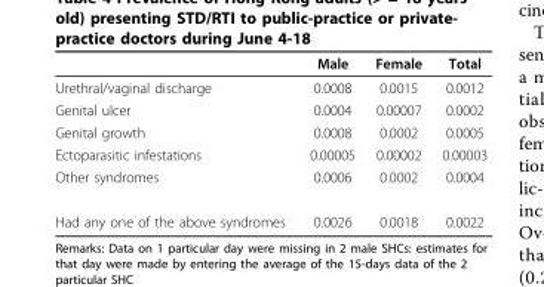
<table><thead><tr><td></td><td>Male</td><td>Female</td><td>Total</td></tr></thead><tbody><tr><td>Urethral/vaginal discharge</td><td>0.0008</td><td>0.0015</td><td>0.0012</td></tr><tr><td>Genital ulcer</td><td>0.0004</td><td>0.00007</td><td>0.0002</td></tr><tr><td>Genital growth</td><td>0.0008</td><td>0.0002</td><td>0.0005</td></tr><tr><td>Ectoparasitic infestations</td><td>0.00005</td><td>0.00002</td><td>0.00003</td></tr><tr><td>Other syndromes</td><td>0.0006</td><td>0.0002</td><td>0.0004</td></tr><tr><td>Had any one of the above syndromes</td><td>0.0026</td><td>0.0018</td><td>0.0022</td></tr></tbody></table>